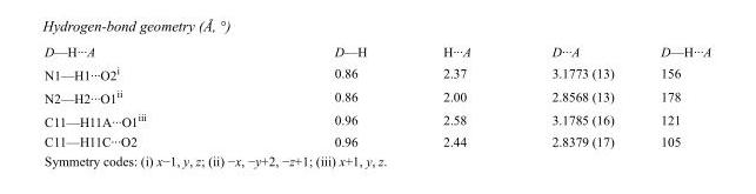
<table><tbody><tr><td>D—H···A</td><td>D—H</td><td>H···A</td><td>D···A</td><td>D—H···A</td></tr><tr><td>N1—H1···O2<sup>i</sup></td><td>0.86</td><td>2.37</td><td>3.1773 (13)</td><td>156</td></tr><tr><td>N2—H2···O1<sup>ii</sup></td><td>0.86</td><td>2.00</td><td>2.8568 (13)</td><td>178</td></tr><tr><td>C11—H11A···O1<sup>iii</sup></td><td>0.96</td><td>2.58</td><td>3.1785 (16)</td><td>121</td></tr><tr><td>C11—H11C···O2</td><td>0.96</td><td>2.44</td><td>2.8379 (17)</td><td>105</td></tr></tbody></table>